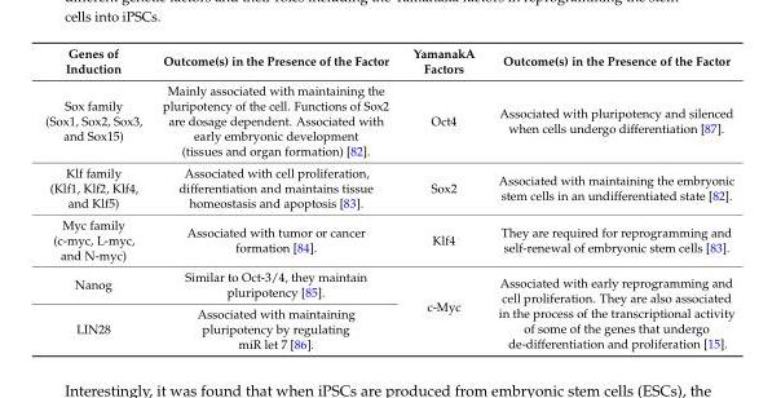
<table><thead><tr><td>Genes of Induction</td><td>Outcome(s) in the Presence of the Factor</td><td>YamanakA Factors</td><td>Outcome(s) in the Presence of the Factor</td></tr></thead><tbody><tr><td>Sox family (Sox1, Sox2, Sox3, and Sox15)</td><td>Mainly associated with maintaining the pluripotency of the cell. Functions of Sox2 are dosage dependent. Associated with early embryonic development (tissues and organ formation) [82].</td><td>Oct4</td><td>Associated with pluripotency and silenced when cells undergo differentiation [87].</td></tr><tr><td>Klf family (Klf1, Klf2, Klf4, and Klf5)</td><td>Associated with cell proliferation, differentiation and maintains tissue homeostasis and apoptosis [83].</td><td>Sox2</td><td>Associated with maintaining the embryonic stem cells in an undifferentiated state [82].</td></tr><tr><td>Myc family (c-myc, L-myc, and N-myc)</td><td>Associated with tumor or cancer formation [84].</td><td>Klf4</td><td>They are required for reprogramming and self-renewal of embryonic stem cells [83].</td></tr><tr><td>Nanog</td><td>Similar to Oct-3/4, they maintain pluripotency [85].</td><td rowspan="2">c-Myc</td><td rowspan="2">Associated with early reprogramming and cell proliferation. They are also associated in the process of the transcriptional activity of some of the genes that undergo de-differentiation and proliferation [15].</td></tr><tr><td>LIN28</td><td>Associated with maintaining pluripotency by regulating miR let 7 [86].</td></tr></tbody></table>